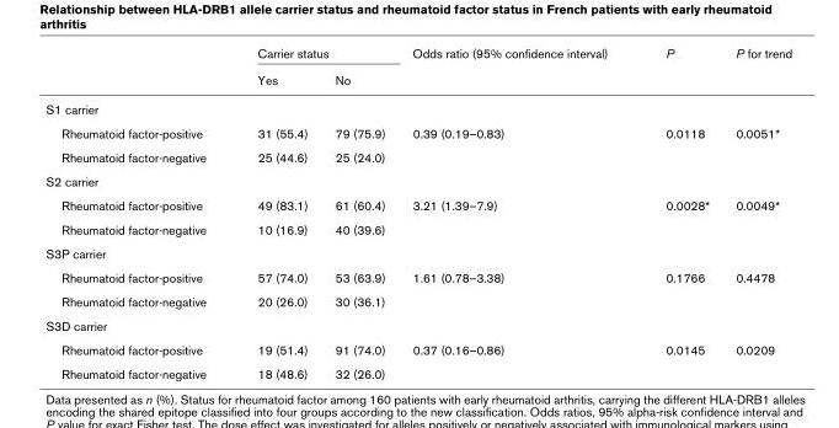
<table><thead><tr><td rowspan="2"></td><td colspan="2">Carrier status</td><td rowspan="2">Odds ratio (95% confidence interval)</td><td rowspan="2">P</td><td rowspan="2">P for trend</td></tr><tr><td>Yes</td><td>No</td></tr></thead><tbody><tr><td colspan="6">S1 carrier</td></tr><tr><td>Rheumatoid factor-positive</td><td>31 (55.4)</td><td>79 (75.9)</td><td>0.39 (0.19–0.83)</td><td>0.0118</td><td>0.0051*</td></tr><tr><td>Rheumatoid factor-negative</td><td>25 (44.6)</td><td>25 (24.0)</td><td></td><td></td><td></td></tr><tr><td colspan="6">S2 carrier</td></tr><tr><td>Rheumatoid factor-positive</td><td>49 (83.1)</td><td>61 (60.4)</td><td>3.21 (1.39–7.9)</td><td>0.0028*</td><td>0.0049*</td></tr><tr><td>Rheumatoid factor-negative</td><td>10 (16.9)</td><td>40 (39.6)</td><td></td><td></td><td></td></tr><tr><td colspan="6">S3P carrier</td></tr><tr><td>Rheumatoid factor-positive</td><td>57 (74.0)</td><td>53 (63.9)</td><td>1.61 (0.78–3.38)</td><td>0.1766</td><td>0.4478</td></tr><tr><td>Rheumatoid factor-negative</td><td>20 (26.0)</td><td>30 (36.1)</td><td></td><td></td><td></td></tr><tr><td colspan="6">S3D carrier</td></tr><tr><td>Rheumatoid factor-positive</td><td>19 (51.4)</td><td>91 (74.0)</td><td>0.37 (0.16–0.86)</td><td>0.0145</td><td>0.0209</td></tr><tr><td>Rheumatoid factor-negative</td><td>18 (48.6)</td><td>32 (26.0)</td><td></td><td></td><td></td></tr></tbody></table>